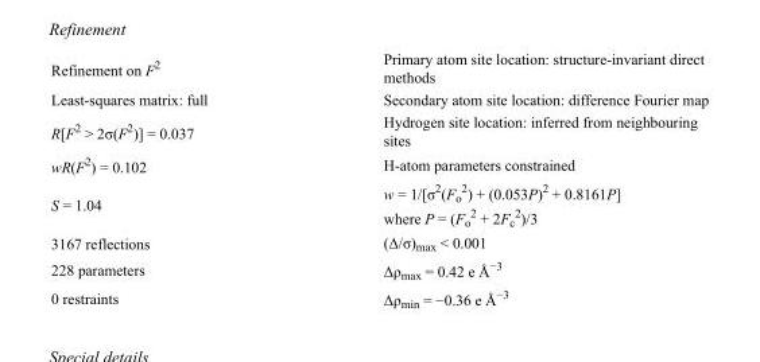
<table><tbody><tr><td>Refinement on F<sup>2</sup></td><td>Primary atom site location: structure-invariant direct methods</td></tr><tr><td>Least-squares matrix: full</td><td>Secondary atom site location: difference Fourier map</td></tr><tr><td>R[F<sup>2</sup> &gt; 2σ(F<sup>2</sup>)] = 0.037</td><td>Hydrogen site location: inferred from neighbouring sites</td></tr><tr><td>wR(F<sup>2</sup>) = 0.102</td><td>H-atom parameters constrained</td></tr><tr><td>S = 1.04</td><td>w = 1/[σ<sup>2</sup>(F<sub>o</sub> <sup>2</sup>) + (0.053P)<sup>2</sup> + 0.8161P] where P = (F<sub>o</sub> <sup>2</sup> + 2F<sub>c</sub> <sup>2</sup>)/3</td></tr><tr><td>3167 reflections</td><td>(Δ/σ)<sub>max</sub> &lt; 0.001</td></tr><tr><td>228 parameters</td><td>Δρ<sub>max</sub> = 0.42 e Å<sup>−3</sup></td></tr><tr><td>0 restraints</td><td>Δρ<sub>min</sub> = −0.36 e Å<sup>−3</sup></td></tr></tbody></table>